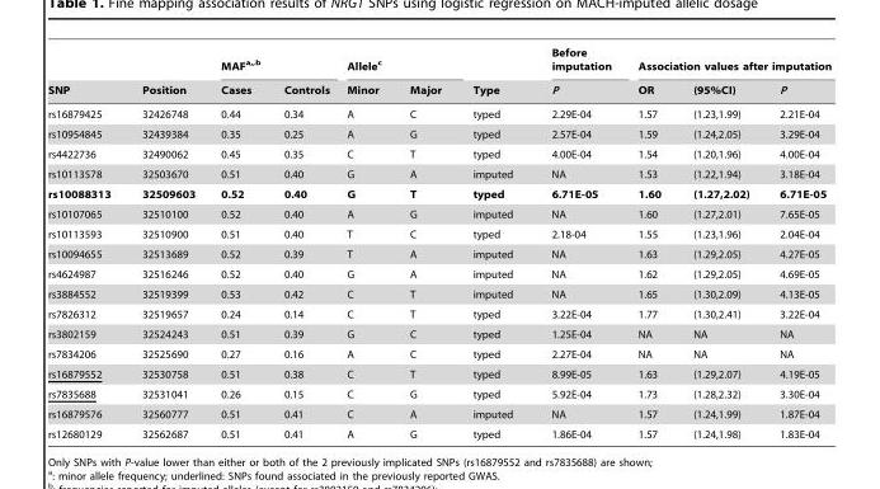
<table><thead><tr><td rowspan="2">SNP</td><td rowspan="2">Position</td><td colspan="2">MAFa,,b</td><td colspan="2">Allele<sup>c</sup></td><td rowspan="2">Type</td><td rowspan="2">Before imputation P</td><td colspan="3">Association values after imputation</td></tr><tr><td>Cases</td><td>Controls</td><td>Minor</td><td>Major</td><td>OR</td><td>(95%CI)</td><td>P</td></tr></thead><tbody><tr><td>rs16879425</td><td>32426748</td><td>0.44</td><td>0.34</td><td>A</td><td>C</td><td>typed</td><td>2.29E-04</td><td>1.57</td><td>(1.23,1.99)</td><td>2.21E-04</td></tr><tr><td>rs10954845</td><td>32439384</td><td>0.35</td><td>0.25</td><td>A</td><td>G</td><td>typed</td><td>2.57E-04</td><td>1.59</td><td>(1.24,2.05)</td><td>3.29E-04</td></tr><tr><td>rs4422736</td><td>32490062</td><td>0.45</td><td>0.35</td><td>C</td><td>T</td><td>typed</td><td>4.00E-04</td><td>1.54</td><td>(1.20,1.96)</td><td>4.00E-04</td></tr><tr><td>rs10113578</td><td>32503670</td><td>0.51</td><td>0.40</td><td>G</td><td>A</td><td>imputed</td><td>NA</td><td>1.53</td><td>(1.22,1.94)</td><td>3.18E-04</td></tr><tr><td>rs10088313</td><td>32509603</td><td>0.52</td><td>0.40</td><td>G</td><td>T</td><td>typed</td><td>6.71E-05</td><td>1.60</td><td>(1.27,2.02)</td><td>6.71E-05</td></tr><tr><td>rs10107065</td><td>32510100</td><td>0.52</td><td>0.40</td><td>A</td><td>G</td><td>imputed</td><td>NA</td><td>1.60</td><td>(1.27,2.01)</td><td>7.65E-05</td></tr><tr><td>rs10113593</td><td>32510900</td><td>0.51</td><td>0.40</td><td>T</td><td>C</td><td>typed</td><td>2.18-04</td><td>1.55</td><td>(1.23,1.96)</td><td>2.04E-04</td></tr><tr><td>rs10094655</td><td>32513689</td><td>0.52</td><td>0.39</td><td>T</td><td>A</td><td>imputed</td><td>NA</td><td>1.63</td><td>(1.29,2.05)</td><td>4.27E-05</td></tr><tr><td>rs4624987</td><td>32516246</td><td>0.52</td><td>0.40</td><td>G</td><td>A</td><td>imputed</td><td>NA</td><td>1.62</td><td>(1.29,2.05)</td><td>4.69E-05</td></tr><tr><td>rs3884552</td><td>32519399</td><td>0.53</td><td>0.42</td><td>C</td><td>T</td><td>imputed</td><td>NA</td><td>1.65</td><td>(1.30,2.09)</td><td>4.13E-05</td></tr><tr><td>rs7826312</td><td>32519657</td><td>0.24</td><td>0.14</td><td>C</td><td>T</td><td>typed</td><td>3.22E-04</td><td>1.77</td><td>(1.30,2.41)</td><td>3.22E-04</td></tr><tr><td>rs3802159</td><td>32524243</td><td>0.51</td><td>0.39</td><td>G</td><td>C</td><td>typed</td><td>1.25E-04</td><td>NA</td><td>NA</td><td>NA</td></tr><tr><td>rs7834206</td><td>32525690</td><td>0.27</td><td>0.16</td><td>A</td><td>C</td><td>typed</td><td>2.27E-04</td><td>NA</td><td>NA</td><td>NA</td></tr><tr><td>rs16879552</td><td>32530758</td><td>0.51</td><td>0.38</td><td>C</td><td>T</td><td>typed</td><td>8.99E-05</td><td>1.63</td><td>(1.29,2.07)</td><td>4.19E-05</td></tr><tr><td>rs7835688</td><td>32531041</td><td>0.26</td><td>0.15</td><td>C</td><td>G</td><td>typed</td><td>5.92E-04</td><td>1.73</td><td>(1.28,2.32)</td><td>3.30E-04</td></tr><tr><td>rs16879576</td><td>32560777</td><td>0.51</td><td>0.41</td><td>C</td><td>A</td><td>imputed</td><td>NA</td><td>1.57</td><td>(1.24,1.99)</td><td>1.87E-04</td></tr><tr><td>rs12680129</td><td>32562687</td><td>0.51</td><td>0.41</td><td>A</td><td>G</td><td>typed</td><td>1.86E-04</td><td>1.57</td><td>(1.24,1.98)</td><td>1.83E-04</td></tr></tbody></table>